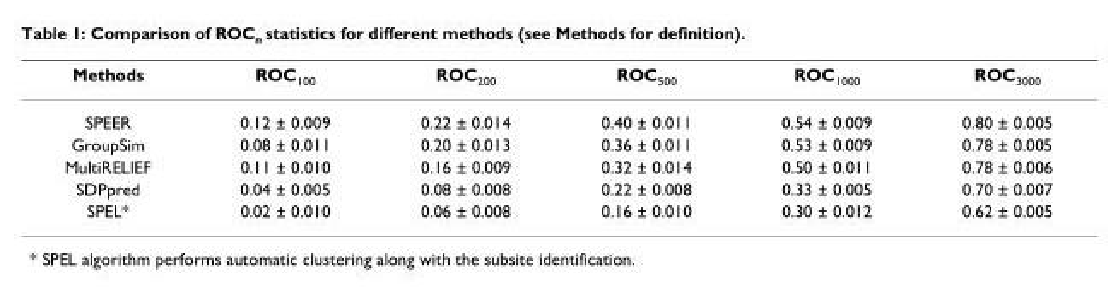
<table><thead><tr><td>Methods</td><td>ROC<sub>100</sub></td><td>ROC<sub>200</sub></td><td>ROC<sub>500</sub></td><td>ROC<sub>1000</sub></td><td>ROC<sub>3000</sub></td></tr></thead><tbody><tr><td>SPEER</td><td>0.12 ± 0.009</td><td>0.22 ± 0.014</td><td>0.40 ± 0.011</td><td>0.54 ± 0.009</td><td>0.80 ± 0.005</td></tr><tr><td>GroupSim</td><td>0.08 ± 0.011</td><td>0.20 ± 0.013</td><td>0.36 ± 0.011</td><td>0.53 ± 0.009</td><td>0.78 ± 0.005</td></tr><tr><td>MultiRELIEF</td><td>0.11 ± 0.010</td><td>0.16 ± 0.009</td><td>0.32 ± 0.014</td><td>0.50 ± 0.011</td><td>0.78 ± 0.006</td></tr><tr><td>SDPpred</td><td>0.04 ± 0.005</td><td>0.08 ± 0.008</td><td>0.22 ± 0.008</td><td>0.33 ± 0.005</td><td>0.70 ± 0.007</td></tr><tr><td>SPEL*</td><td>0.02 ± 0.010</td><td>0.06 ± 0.008</td><td>0.16 ± 0.010</td><td>0.30 ± 0.012</td><td>0.62 ± 0.005</td></tr></tbody></table>